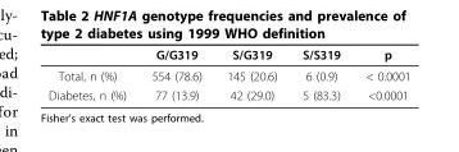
<table><thead><tr><td></td><td>G/G319</td><td>S/G319</td><td>S/S319</td><td>p</td></tr></thead><tbody><tr><td>Total, n (%)</td><td>554 (78.6)</td><td>145 (20.6)</td><td>6 (0.9)</td><td>&lt; 0.0001</td></tr><tr><td>Diabetes, n (%)</td><td>77 (13.9)</td><td>42 (29.0)</td><td>5 (83.3)</td><td>&lt;0.0001</td></tr></tbody></table>